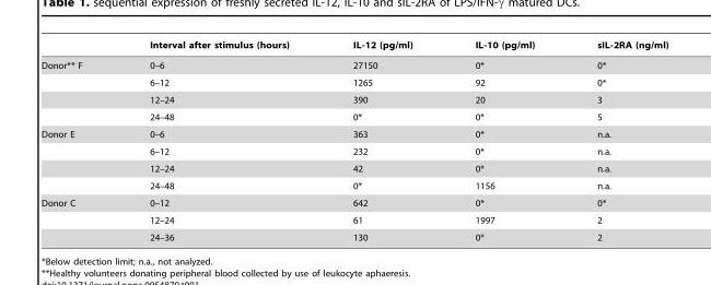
<table><thead><tr><td></td><td>Interval after stimulus (hours)</td><td>IL-12 (pg/ml)</td><td>IL-10 (pg/ml)</td><td>sIL-2RA (ng/ml)</td></tr></thead><tbody><tr><td rowspan="4">Donor** F</td><td>0–6</td><td>27150</td><td>0*</td><td>0*</td></tr><tr><td>6–12</td><td>1265</td><td>92</td><td>0*</td></tr><tr><td>12–24</td><td>390</td><td>20</td><td>3</td></tr><tr><td>24–48</td><td>0*</td><td>0*</td><td>5</td></tr><tr><td rowspan="4">Donor E</td><td>0–6</td><td>363</td><td>0*</td><td>n.a.</td></tr><tr><td>6–12</td><td>232</td><td>0*</td><td>n.a.</td></tr><tr><td>12–24</td><td>42</td><td>0*</td><td>n.a.</td></tr><tr><td>24–48</td><td>0*</td><td>1156</td><td>n.a.</td></tr><tr><td rowspan="3">Donor C</td><td>0–12</td><td>642</td><td>0*</td><td>0*</td></tr><tr><td>12–24</td><td>61</td><td>1997</td><td>2</td></tr><tr><td>24–36</td><td>130</td><td>0*</td><td>2</td></tr></tbody></table>